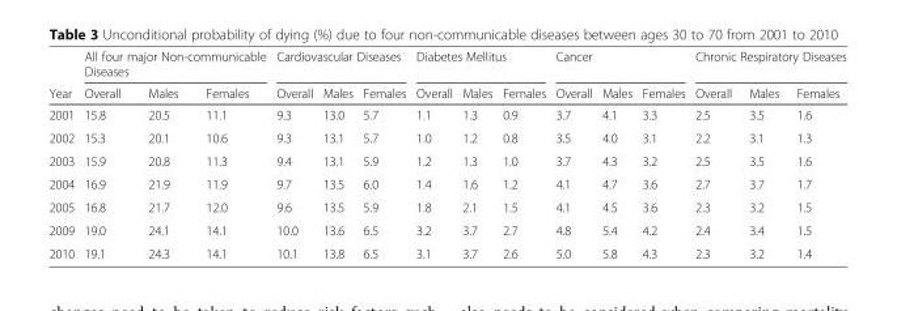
<table><thead><tr><td rowspan="2">Year</td><td colspan="3">All four major Non-communicable Diseases</td><td colspan="3">Cardiovascular Diseases</td><td colspan="3">Diabetes Mellitus</td><td colspan="3">Cancer</td><td colspan="3">Chronic Respiratory Diseases</td></tr><tr><td>Overall</td><td>Males</td><td>Females</td><td>Overall</td><td>Males</td><td>Females</td><td>Overall</td><td>Males</td><td>Females</td><td>Overall</td><td>Males</td><td>Females</td><td>Overall</td><td>Males</td><td>Females</td></tr></thead><tbody><tr><td>2001</td><td>15.8</td><td>20.5</td><td>11.1</td><td>9.3</td><td>13.0</td><td>5.7</td><td>1.1</td><td>1.3</td><td>0.9</td><td>3.7</td><td>4.1</td><td>3.3</td><td>2.5</td><td>3.5</td><td>1.6</td></tr><tr><td>2002</td><td>15.3</td><td>20.1</td><td>10.6</td><td>9.3</td><td>13.1</td><td>5.7</td><td>1.0</td><td>1.2</td><td>0.8</td><td>3.5</td><td>4.0</td><td>3.1</td><td>2.2</td><td>3.1</td><td>1.3</td></tr><tr><td>2003</td><td>15.9</td><td>20.8</td><td>11.3</td><td>9.4</td><td>13.1</td><td>5.9</td><td>1.2</td><td>1.3</td><td>1.0</td><td>3.7</td><td>4.3</td><td>3.2</td><td>2.5</td><td>3.5</td><td>1.6</td></tr><tr><td>2004</td><td>16.9</td><td>21.9</td><td>11.9</td><td>9.7</td><td>13.5</td><td>6.0</td><td>1.4</td><td>1.6</td><td>1.2</td><td>4.1</td><td>4.7</td><td>3.6</td><td>2.7</td><td>3.7</td><td>1.7</td></tr><tr><td>2005</td><td>16.8</td><td>21.7</td><td>12.0</td><td>9.6</td><td>13.5</td><td>5.9</td><td>1.8</td><td>2.1</td><td>1.5</td><td>4.1</td><td>4.5</td><td>3.6</td><td>2.3</td><td>3.2</td><td>1.5</td></tr><tr><td>2009</td><td>19.0</td><td>24.1</td><td>14.1</td><td>10.0</td><td>13.6</td><td>6.5</td><td>3.2</td><td>3.7</td><td>2.7</td><td>4.8</td><td>5.4</td><td>4.2</td><td>2.4</td><td>3.4</td><td>1.5</td></tr><tr><td>2010</td><td>19.1</td><td>24.3</td><td>14.1</td><td>10.1</td><td>13.8</td><td>6.5</td><td>3.1</td><td>3.7</td><td>2.6</td><td>5.0</td><td>5.8</td><td>4.3</td><td>2.3</td><td>3.2</td><td>1.4</td></tr></tbody></table>